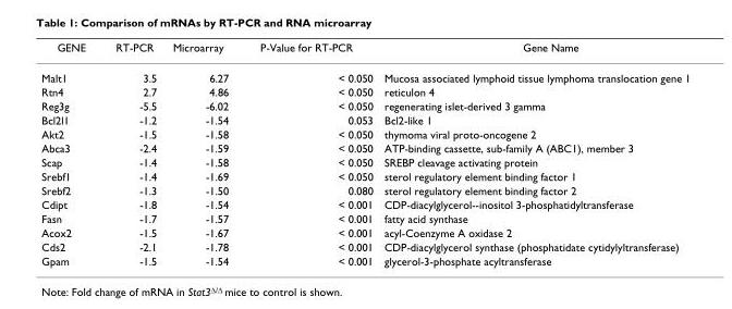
<table><thead><tr><td>GENE</td><td>RT-PCR</td><td>Microarray</td><td>P-Value for RT-PCR</td><td>Gene Name</td></tr></thead><tbody><tr><td>Malt1</td><td>3.5</td><td>6.27</td><td>&lt; 0.050</td><td>Mucosa associated lymphoid tissue lymphoma translocation gene 1</td></tr><tr><td>Rtn4</td><td>2.7</td><td>4.86</td><td>&lt; 0.050</td><td>reticulon 4</td></tr><tr><td>Reg3g</td><td>-5.5</td><td>-6.02</td><td>&lt; 0.050</td><td>regenerating islet-derived 3 gamma</td></tr><tr><td>Bcl2l1</td><td>-1.2</td><td>-1.54</td><td>0.053</td><td>Bcl2-like 1</td></tr><tr><td>Akt2</td><td>-1.5</td><td>-1.58</td><td>&lt; 0.050</td><td>thymoma viral proto-oncogene 2</td></tr><tr><td>Abca3</td><td>-2.4</td><td>-1.59</td><td>&lt; 0.050</td><td>ATP-binding cassette, sub-family A (ABC1), member 3</td></tr><tr><td>Scap</td><td>-1.4</td><td>-1.58</td><td>&lt; 0.050</td><td>SREBP cleavage activating protein</td></tr><tr><td>Srebf1</td><td>-1.4</td><td>-1.69</td><td>&lt; 0.050</td><td>sterol regulatory element binding factor 1</td></tr><tr><td>Srebf2</td><td>-1.3</td><td>-1.50</td><td>0.080</td><td>sterol regulatory element binding factor 2</td></tr><tr><td>Cdipt</td><td>-1.8</td><td>-1.54</td><td>&lt; 0.001</td><td>CDP-diacylglycerol--inositol 3-phosphatidyltransferase</td></tr><tr><td>Fasn</td><td>-1.7</td><td>-1.57</td><td>&lt; 0.001</td><td>fatty acid synthase</td></tr><tr><td>Acox2</td><td>-1.5</td><td>-1.67</td><td>&lt; 0.001</td><td>acyl-Coenzyme A oxidase 2</td></tr><tr><td>Cds2</td><td>-2.1</td><td>-1.78</td><td>&lt; 0.001</td><td>CDP-diacylglycerol synthase (phosphatidate cytidylyltransferase)</td></tr><tr><td>Gpam</td><td>-1.5</td><td>-1.54</td><td>&lt; 0.001</td><td>glycerol-3-phosphate acyltransferase</td></tr></tbody></table>